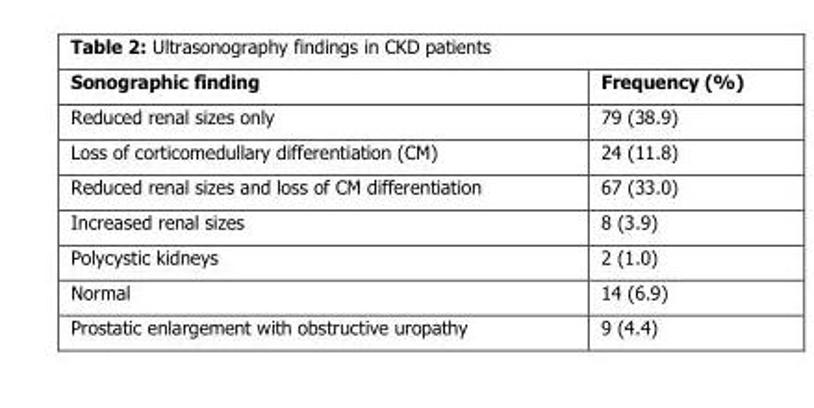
<table><thead><tr><td>Sonographic finding</td><td>Frequency (%)</td></tr></thead><tbody><tr><td>Reduced renal sizes only</td><td>79 (38.9)</td></tr><tr><td>Loss of corticomedullary differentiation (CM)</td><td>24 (11.8)</td></tr><tr><td>Reduced renal sizes and loss of CM differentiation</td><td>67 (33.0)</td></tr><tr><td>Increased renal sizes</td><td>8 (3.9)</td></tr><tr><td>Polycystic kidneys</td><td>2 (1.0)</td></tr><tr><td>Normal</td><td>14 (6.9)</td></tr><tr><td>Prostatic enlargement with obstructive uropathy</td><td>9 (4.4)</td></tr></tbody></table>